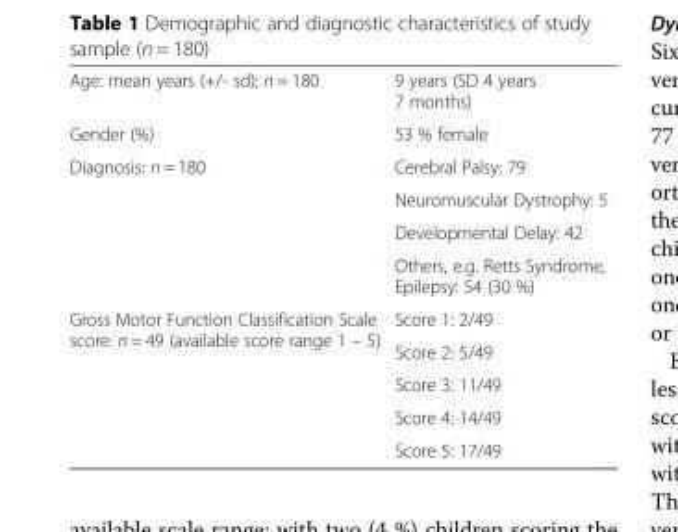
<table><tbody><tr><td>Age: mean years (+/- sd); n = 180</td><td>9 years (SD 4 years 7 months)</td></tr><tr><td>Gender (%)</td><td>53 % female</td></tr><tr><td rowspan="4">Diagnosis: n = 180</td><td>Cerebral Palsy: 79</td></tr><tr><td>Neuromuscular Dystrophy: 5</td></tr><tr><td>Developmental Delay: 42</td></tr><tr><td>Others, e.g. Retts Syndrome, Epilepsy: 54 (30 %)</td></tr><tr><td rowspan="5">Gross Motor Function Classification Scale score: n = 49 (available score range 1 – 5)</td><td>Score 1: 2/49</td></tr><tr><td>Score 2: 5/49</td></tr><tr><td>Score 3: 11/49</td></tr><tr><td>Score 4: 14/49</td></tr><tr><td>Score 5: 17/49</td></tr></tbody></table>